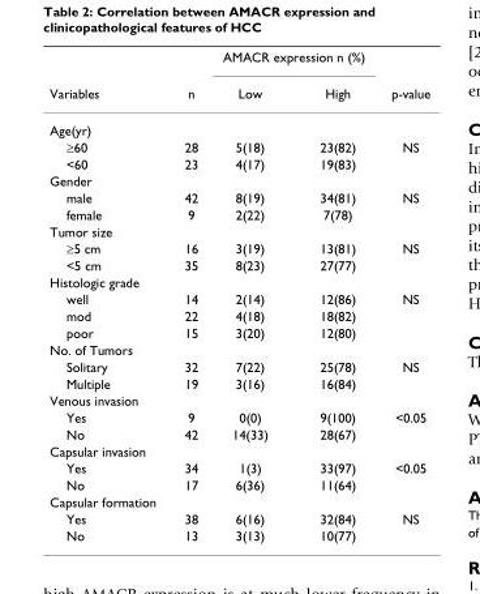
<table><thead><tr><td rowspan="2">Variables</td><td rowspan="2">n</td><td colspan="2">AMACR expression n (%)</td><td rowspan="2">p-value</td></tr><tr><td>Low</td><td>High</td></tr></thead><tbody><tr><td colspan="5">Age(yr)</td></tr><tr><td>≥60</td><td>28</td><td>5(18)</td><td>23(82)</td><td>NS</td></tr><tr><td>&lt;60</td><td>23</td><td>4(17)</td><td>19(83)</td><td></td></tr><tr><td colspan="5">Gender</td></tr><tr><td>male</td><td>42</td><td>8(19)</td><td>34(81)</td><td>NS</td></tr><tr><td>female</td><td>9</td><td>2(22)</td><td>7(78)</td><td></td></tr><tr><td colspan="5">Tumor size</td></tr><tr><td>≥5 cm</td><td>16</td><td>3(19)</td><td>13(81)</td><td>NS</td></tr><tr><td>&lt;5 cm</td><td>35</td><td>8(23)</td><td>27(77)</td><td></td></tr><tr><td colspan="5">Histologic grade</td></tr><tr><td>well</td><td>14</td><td>2(14)</td><td>12(86)</td><td>NS</td></tr><tr><td>mod</td><td>22</td><td>4(18)</td><td>18(82)</td><td></td></tr><tr><td>poor</td><td>15</td><td>3(20)</td><td>12(80)</td><td></td></tr><tr><td colspan="5">No. of Tumors</td></tr><tr><td>Solitary</td><td>32</td><td>7(22)</td><td>25(78)</td><td>NS</td></tr><tr><td>Multiple</td><td>19</td><td>3(16)</td><td>16(84)</td><td></td></tr><tr><td colspan="5">Venous invasion</td></tr><tr><td>Yes</td><td>9</td><td>0(0)</td><td>9(100)</td><td>&lt;0.05</td></tr><tr><td>No</td><td>42</td><td>14(33)</td><td>28(67)</td><td></td></tr><tr><td colspan="5">Capsular invasion</td></tr><tr><td>Yes</td><td>34</td><td>1(3)</td><td>33(97)</td><td>&lt;0.05</td></tr><tr><td>No</td><td>17</td><td>6(36)</td><td>11(64)</td><td></td></tr><tr><td colspan="5">Capsular formation</td></tr><tr><td>Yes</td><td>38</td><td>6(16)</td><td>32(84)</td><td>NS</td></tr><tr><td>No</td><td>13</td><td>3(13)</td><td>10(77)</td><td></td></tr></tbody></table>